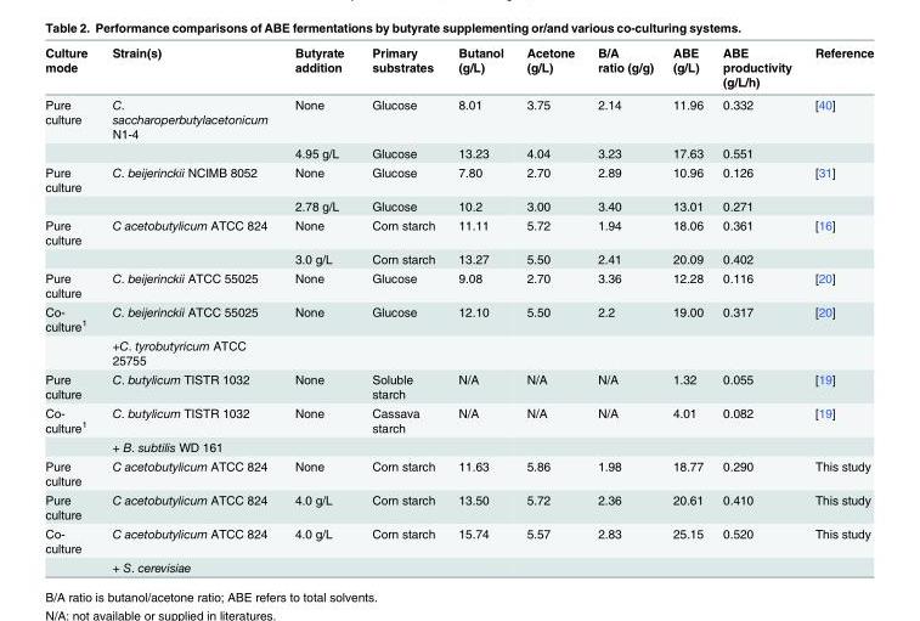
<table><thead><tr><td>Culture mode</td><td>Strain(s)</td><td>Butyrate addition</td><td>Primary substrates</td><td>Butanol (g/L)</td><td>Acetone (g/L)</td><td>B/A ratio (g/g)</td><td>ABE (g/L)</td><td>ABE productivity (g/L/h)</td><td>Reference</td></tr></thead><tbody><tr><td rowspan="2">Pure culture</td><td>C. saccharoperbutylacetonicum N1-4</td><td>None</td><td>Glucose</td><td>8.01</td><td>3.75</td><td>2.14</td><td>11.96</td><td>0.332</td><td>[40]</td></tr><tr><td></td><td>4.95 g/L</td><td>Glucose</td><td>13.23</td><td>4.04</td><td>3.23</td><td>17.63</td><td>0.551</td><td></td></tr><tr><td rowspan="2">Pure culture</td><td>C. beijerinckii NCIMB 8052</td><td>None</td><td>Glucose</td><td>7.80</td><td>2.70</td><td>2.89</td><td>10.96</td><td>0.126</td><td>[31]</td></tr><tr><td></td><td>2.78 g/L</td><td>Glucose</td><td>10.2</td><td>3.00</td><td>3.40</td><td>13.01</td><td>0.271</td><td></td></tr><tr><td rowspan="2">Pure culture</td><td>C acetobutylicum ATCC 824</td><td>None</td><td>Corn starch</td><td>11.11</td><td>5.72</td><td>1.94</td><td>18.06</td><td>0.361</td><td>[16]</td></tr><tr><td></td><td>3.0 g/L</td><td>Corn starch</td><td>13.27</td><td>5.50</td><td>2.41</td><td>20.09</td><td>0.402</td><td></td></tr><tr><td>Pure culture</td><td>C. beijerinckii ATCC 55025</td><td>None</td><td>Glucose</td><td>9.08</td><td>2.70</td><td>3.36</td><td>12.28</td><td>0.116</td><td>[20]</td></tr><tr><td rowspan="2">Co- culture<sup>1</sup></td><td>C. beijerinckii ATCC 55025</td><td>None</td><td>Glucose</td><td>12.10</td><td>5.50</td><td>2.2</td><td>19.00</td><td>0.317</td><td>[20]</td></tr><tr><td>+C. tyrobutyricum ATCC 25755</td><td></td><td></td><td></td><td></td><td></td><td></td><td></td><td></td></tr><tr><td>Pure culture</td><td>C. butylicum TISTR 1032</td><td>None</td><td>Soluble starch</td><td>N/A</td><td>N/A</td><td>N/A</td><td>1.32</td><td>0.055</td><td>[19]</td></tr><tr><td rowspan="2">Co- culture<sup>1</sup></td><td>C. butylicum TISTR 1032</td><td>None</td><td>Cassava starch</td><td>N/A</td><td>N/A</td><td>N/A</td><td>4.01</td><td>0.082</td><td>[19]</td></tr><tr><td>+ B. subtilis WD 161</td><td></td><td></td><td></td><td></td><td></td><td></td><td></td><td></td></tr><tr><td>Pure culture</td><td>C acetobutylicum ATCC 824</td><td>None</td><td>Corn starch</td><td>11.63</td><td>5.86</td><td>1.98</td><td>18.77</td><td>0.290</td><td>This study</td></tr><tr><td>Pure culture</td><td>C acetobutylicum ATCC 824</td><td>4.0 g/L</td><td>Corn starch</td><td>13.50</td><td>5.72</td><td>2.36</td><td>20.61</td><td>0.410</td><td>This study</td></tr><tr><td rowspan="2">Co- culture</td><td>C acetobutylicum ATCC 824</td><td>4.0 g/L</td><td>Corn starch</td><td>15.74</td><td>5.57</td><td>2.83</td><td>25.15</td><td>0.520</td><td>This study</td></tr><tr><td>+ S. cerevisiae</td><td></td><td></td><td></td><td></td><td></td><td></td><td></td><td></td></tr></tbody></table>